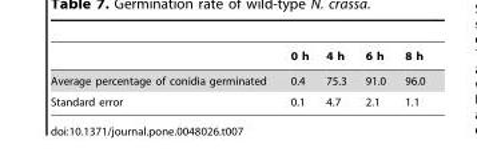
<table><thead><tr><td></td><td>0 h</td><td>4 h</td><td>6 h</td><td>8 h</td></tr></thead><tbody><tr><td>Average percentage of conidia germinated</td><td>0.4</td><td>75.3</td><td>91.0</td><td>96.0</td></tr><tr><td>Standard error</td><td>0.1</td><td>4.7</td><td>2.1</td><td>1.1</td></tr></tbody></table>